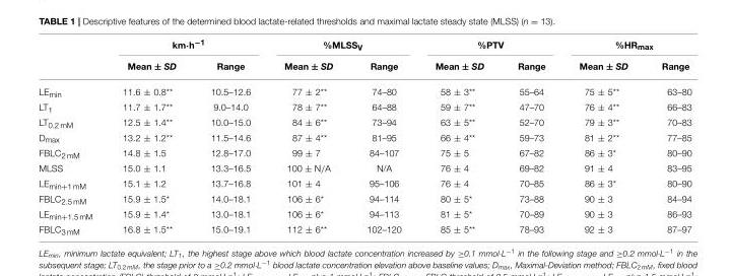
<table><thead><tr><td rowspan="2"></td><td colspan="2">km·h<sup>−1</sup></td><td colspan="2">%MLSS<sub>V</sub></td><td colspan="2">%PTV</td><td colspan="2">%HR<sub>max</sub></td></tr><tr><td>Mean ± SD</td><td>Range</td><td>Mean ± SD</td><td>Range</td><td>Mean ± SD</td><td>Range</td><td>Mean ± SD</td><td>Range</td></tr></thead><tbody><tr><td>LE<sub>min</sub></td><td>11.6 ± 0.8**</td><td>10.5–12.6</td><td>77 ± 2**</td><td>74–80</td><td>58 ± 3**</td><td>55–64</td><td>75 ± 5**</td><td>63–80</td></tr><tr><td>LT<sub>1</sub></td><td>11.7 ± 1.7**</td><td>9.0–14.0</td><td>78 ± 7**</td><td>64–88</td><td>59 ± 7**</td><td>47–70</td><td>76 ± 4**</td><td>66–83</td></tr><tr><td>LT<sub>0.2 mM</sub></td><td>12.5 ± 1.4**</td><td>10.0–15.0</td><td>84 ± 6**</td><td>73–94</td><td>63 ± 5**</td><td>52–70</td><td>79 ± 3**</td><td>70–83</td></tr><tr><td>D<sub>max</sub></td><td>13.2 ± 1.2**</td><td>11.5–14.6</td><td>87 ± 4**</td><td>81–95</td><td>66 ± 4**</td><td>59–73</td><td>81 ± 2**</td><td>77–85</td></tr><tr><td>FBLC<sub>2 mM</sub></td><td>14.8 ± 1.5</td><td>12.8–17.0</td><td>99 ± 7</td><td>84–107</td><td>75 ± 5</td><td>67–82</td><td>86 ± 3*</td><td>80–90</td></tr><tr><td>MLSS</td><td>15.0 ± 1.1</td><td>13.3–16.5</td><td>100 ± N/A</td><td>N/A</td><td>76 ± 4</td><td>69–82</td><td>91 ± 4</td><td>83–95</td></tr><tr><td>LE<sub>min+1 mM</sub></td><td>15.1 ± 1.2</td><td>13.7–16.8</td><td>101 ± 4</td><td>95–106</td><td>76 ± 4</td><td>70–85</td><td>86 ± 3*</td><td>80–90</td></tr><tr><td>FBLC<sub>2.5 mM</sub></td><td>15.9 ± 1.5*</td><td>14.0–18.1</td><td>106 ± 6*</td><td>94–114</td><td>80 ± 5*</td><td>73–88</td><td>90 ± 3</td><td>84–94</td></tr><tr><td>LE<sub>min+1.5 mM</sub></td><td>15.9 ± 1.4*</td><td>13.0–18.1</td><td>106 ± 6*</td><td>94–113</td><td>81 ± 5*</td><td>70–89</td><td>90 ± 3</td><td>86–93</td></tr><tr><td>FBLC<sub>3 mM</sub></td><td>16.8 ± 1.5**</td><td>15.0–19.1</td><td>112 ± 6**</td><td>102–120</td><td>85 ± 5**</td><td>78–93</td><td>92 ± 3</td><td>87–97</td></tr></tbody></table>